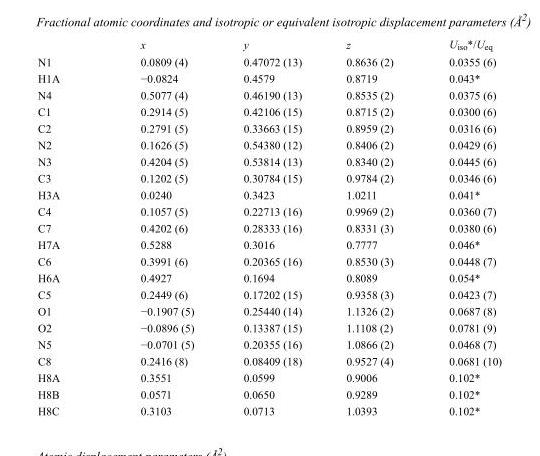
<table><thead><tr><td></td><td>x</td><td>y</td><td>z</td><td>U<sub>iso</sub>*/U<sub>eq</sub></td></tr></thead><tbody><tr><td>N1</td><td>0.0809 (4)</td><td>0.47072 (13)</td><td>0.8636 (2)</td><td>0.0355 (6)</td></tr><tr><td>H1A</td><td>−0.0824</td><td>0.4579</td><td>0.8719</td><td>0.043*</td></tr><tr><td>N4</td><td>0.5077 (4)</td><td>0.46190 (13)</td><td>0.8535 (2)</td><td>0.0375 (6)</td></tr><tr><td>C1</td><td>0.2914 (5)</td><td>0.42106 (15)</td><td>0.8715 (2)</td><td>0.0300 (6)</td></tr><tr><td>C2</td><td>0.2791 (5)</td><td>0.33663 (15)</td><td>0.8959 (2)</td><td>0.0316 (6)</td></tr><tr><td>N2</td><td>0.1626 (5)</td><td>0.54380 (12)</td><td>0.8406 (2)</td><td>0.0429 (6)</td></tr><tr><td>N3</td><td>0.4204 (5)</td><td>0.53814 (13)</td><td>0.8340 (2)</td><td>0.0445 (6)</td></tr><tr><td>C3</td><td>0.1202 (5)</td><td>0.30784 (15)</td><td>0.9784 (2)</td><td>0.0346 (6)</td></tr><tr><td>H3A</td><td>0.0240</td><td>0.3423</td><td>1.0211</td><td>0.041*</td></tr><tr><td>C4</td><td>0.1057 (5)</td><td>0.22713 (16)</td><td>0.9969 (2)</td><td>0.0360 (7)</td></tr><tr><td>C7</td><td>0.4202 (6)</td><td>0.28333 (16)</td><td>0.8331 (3)</td><td>0.0380 (6)</td></tr><tr><td>H7A</td><td>0.5288</td><td>0.3016</td><td>0.7777</td><td>0.046*</td></tr><tr><td>C6</td><td>0.3991 (6)</td><td>0.20365 (16)</td><td>0.8530 (3)</td><td>0.0448 (7)</td></tr><tr><td>H6A</td><td>0.4927</td><td>0.1694</td><td>0.8089</td><td>0.054*</td></tr><tr><td>C5</td><td>0.2449 (6)</td><td>0.17202 (15)</td><td>0.9358 (3)</td><td>0.0423 (7)</td></tr><tr><td>O1</td><td>−0.1907 (5)</td><td>0.25440 (14)</td><td>1.1326 (2)</td><td>0.0687 (8)</td></tr><tr><td>O2</td><td>−0.0896 (5)</td><td>0.13387 (15)</td><td>1.1108 (2)</td><td>0.0781 (9)</td></tr><tr><td>N5</td><td>−0.0701 (5)</td><td>0.20355 (16)</td><td>1.0866 (2)</td><td>0.0468 (7)</td></tr><tr><td>C8</td><td>0.2416 (8)</td><td>0.08409 (18)</td><td>0.9527 (4)</td><td>0.0681 (10)</td></tr><tr><td>H8A</td><td>0.3551</td><td>0.0599</td><td>0.9006</td><td>0.102*</td></tr><tr><td>H8B</td><td>0.0571</td><td>0.0650</td><td>0.9289</td><td>0.102*</td></tr><tr><td>H8C</td><td>0.3103</td><td>0.0713</td><td>1.0393</td><td>0.102*</td></tr></tbody></table>